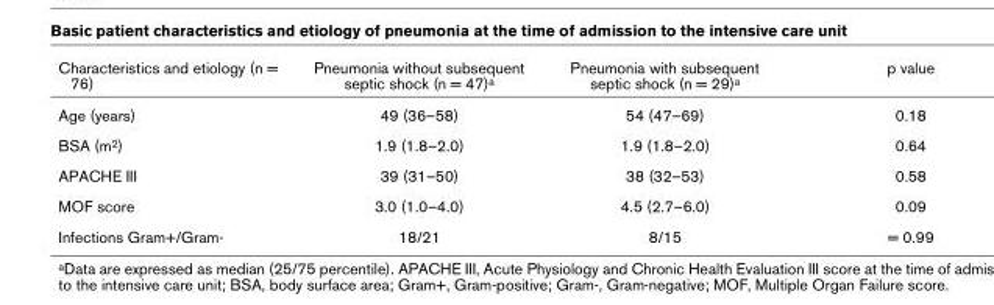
<table><thead><tr><td>Characteristics and etiology (n = 76)</td><td>Pneumonia without subsequent septic shock (n = 47)a</td><td>Pneumonia with subsequent septic shock (n = 29)a</td><td>p value</td></tr></thead><tbody><tr><td>Age (years)</td><td>49 (36–58)</td><td>54 (47–69)</td><td>0.18</td></tr><tr><td>BSA (m2)</td><td>1.9 (1.8–2.0)</td><td>1.9 (1.8–2.0)</td><td>0.64</td></tr><tr><td>APACHE III</td><td>39 (31–50)</td><td>38 (32–53)</td><td>0.58</td></tr><tr><td>MOF score</td><td>3.0 (1.0–4.0)</td><td>4.5 (2.7–6.0)</td><td>0.09</td></tr><tr><td>Infections Gram+/Gram-</td><td>18/21</td><td>8/15</td><td>= 0.99</td></tr></tbody></table>